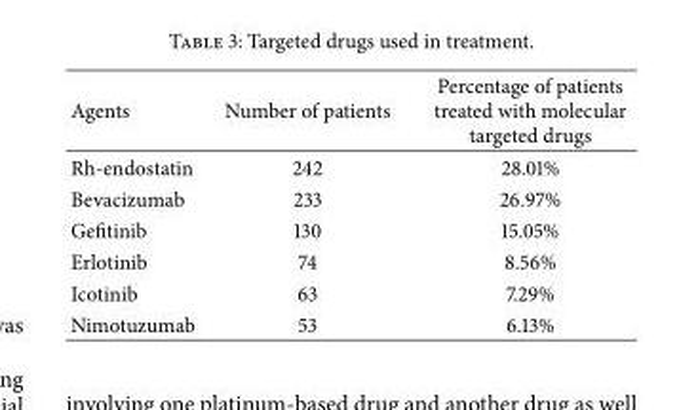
<table><thead><tr><td>Agents</td><td>Number of patients</td><td>Percentage of patients treated with molecular targeted drugs</td></tr></thead><tbody><tr><td>Rh-endostatin</td><td>242</td><td>28.01%</td></tr><tr><td>Bevacizumab</td><td>233</td><td>26.97%</td></tr><tr><td>Gefitinib</td><td>130</td><td>15.05%</td></tr><tr><td>Erlotinib</td><td>74</td><td>8.56%</td></tr><tr><td>Icotinib</td><td>63</td><td>7.29%</td></tr><tr><td>Nimotuzumab</td><td>53</td><td>6.13%</td></tr></tbody></table>